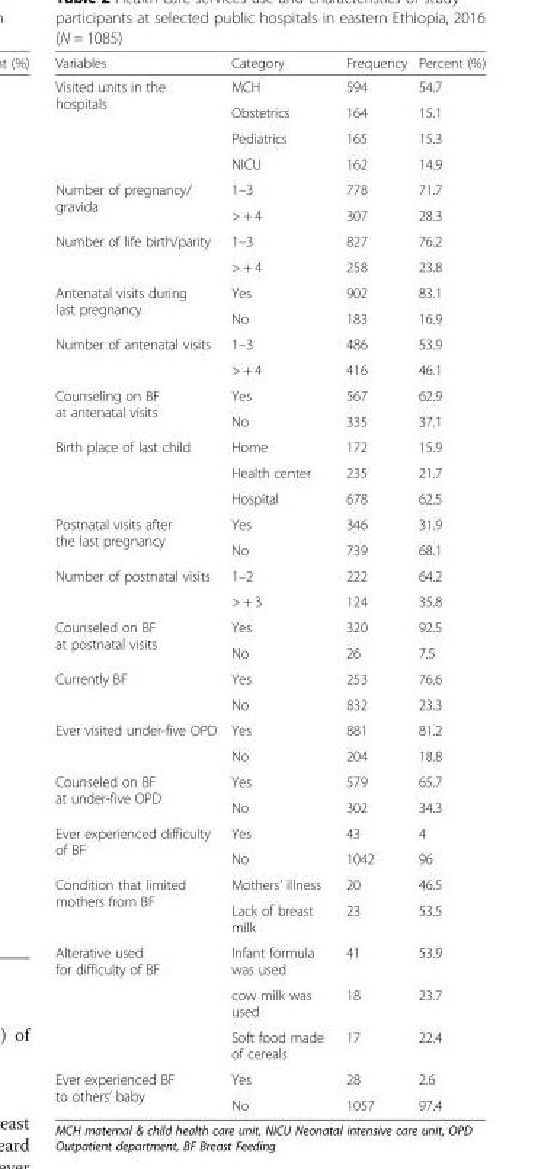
<table><thead><tr><td>Variables</td><td>Category</td><td>Frequency</td><td>Percent (%)</td></tr></thead><tbody><tr><td rowspan="4">Visited units in the hospitals</td><td>MCH</td><td>594</td><td>54.7</td></tr><tr><td>Obstetrics</td><td>164</td><td>15.1</td></tr><tr><td>Pediatrics</td><td>165</td><td>15.3</td></tr><tr><td>NICU</td><td>162</td><td>14.9</td></tr><tr><td rowspan="2">Number of pregnancy/ gravida</td><td>1–3</td><td>778</td><td>71.7</td></tr><tr><td>&gt; + 4</td><td>307</td><td>28.3</td></tr><tr><td rowspan="2">Number of life birth/parity</td><td>1–3</td><td>827</td><td>76.2</td></tr><tr><td>&gt; + 4</td><td>258</td><td>23.8</td></tr><tr><td rowspan="2">Antenatal visits during last pregnancy</td><td>Yes</td><td>902</td><td>83.1</td></tr><tr><td>No</td><td>183</td><td>16.9</td></tr><tr><td rowspan="2">Number of antenatal visits</td><td>1–3</td><td>486</td><td>53.9</td></tr><tr><td>&gt; + 4</td><td>416</td><td>46.1</td></tr><tr><td rowspan="2">Counseling on BF at antenatal visits</td><td>Yes</td><td>567</td><td>62.9</td></tr><tr><td>No</td><td>335</td><td>37.1</td></tr><tr><td rowspan="3">Birth place of last child</td><td>Home</td><td>172</td><td>15.9</td></tr><tr><td>Health center</td><td>235</td><td>21.7</td></tr><tr><td>Hospital</td><td>678</td><td>62.5</td></tr><tr><td rowspan="2">Postnatal visits after the last pregnancy</td><td>Yes</td><td>346</td><td>31.9</td></tr><tr><td>No</td><td>739</td><td>68.1</td></tr><tr><td rowspan="2">Number of postnatal visits</td><td>1–2</td><td>222</td><td>64.2</td></tr><tr><td>&gt; + 3</td><td>124</td><td>35.8</td></tr><tr><td rowspan="2">Counseled on BF at postnatal visits</td><td>Yes</td><td>320</td><td>92.5</td></tr><tr><td>No</td><td>26</td><td>7.5</td></tr><tr><td rowspan="2">Currently BF</td><td>Yes</td><td>253</td><td>76.6</td></tr><tr><td>No</td><td>832</td><td>23.3</td></tr><tr><td rowspan="2">Ever visited under-five OPD</td><td>Yes</td><td>881</td><td>81.2</td></tr><tr><td>No</td><td>204</td><td>18.8</td></tr><tr><td rowspan="2">Counseled on BF at under-five OPD</td><td>Yes</td><td>579</td><td>65.7</td></tr><tr><td>No</td><td>302</td><td>34.3</td></tr><tr><td rowspan="2">Ever experienced difficulty of BF</td><td>Yes</td><td>43</td><td>4</td></tr><tr><td>No</td><td>1042</td><td>96</td></tr><tr><td rowspan="2">Condition that limited mothers from BF</td><td>Mothers’ illness</td><td>20</td><td>46.5</td></tr><tr><td>Lack of breast milk</td><td>23</td><td>53.5</td></tr><tr><td rowspan="3">Alterative used for difficulty of BF</td><td>Infant formula was used</td><td>41</td><td>53.9</td></tr><tr><td>cow milk was used</td><td>18</td><td>23.7</td></tr><tr><td>Soft food made of cereals</td><td>17</td><td>22.4</td></tr><tr><td rowspan="2">Ever experienced BF to others’ baby</td><td>Yes</td><td>28</td><td>2.6</td></tr><tr><td>No</td><td>1057</td><td>97.4</td></tr></tbody></table>